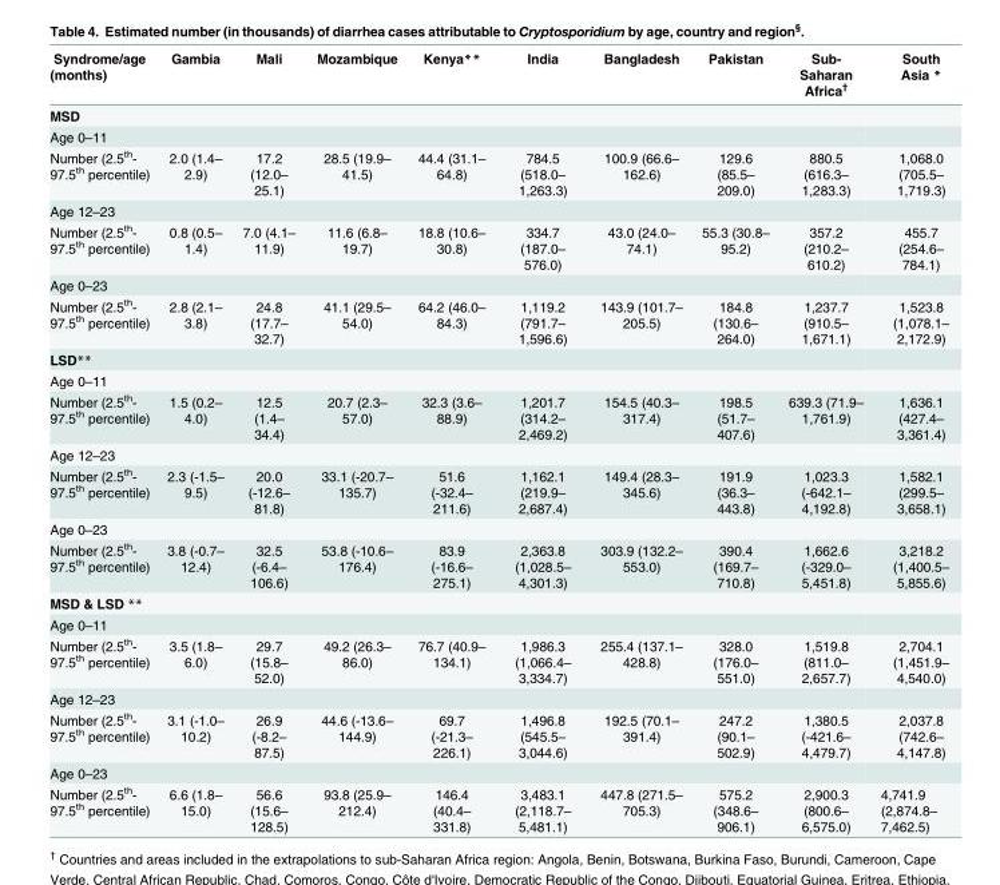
<table><thead><tr><td>Syndrome/age (months)</td><td>Gambia</td><td>Mali</td><td>Mozambique</td><td>Kenya**</td><td>India</td><td>Bangladesh</td><td>Pakistan</td><td>Sub- Saharan Africa<sup>†</sup></td><td>South Asia *</td></tr></thead><tbody><tr><td colspan="10">MSD</td></tr><tr><td colspan="10">Age 0–11</td></tr><tr><td>Number (2.5<sup>th</sup>- 97.5<sup>th</sup> percentile)</td><td>2.0 (1.4– 2.9)</td><td>17.2 (12.0– 25.1)</td><td>28.5 (19.9– 41.5)</td><td>44.4 (31.1– 64.8)</td><td>784.5 (518.0– 1,263.3)</td><td>100.9 (66.6– 162.6)</td><td>129.6 (85.5– 209.0)</td><td>880.5 (616.3– 1,283.3)</td><td>1,068.0 (705.5– 1,719.3)</td></tr><tr><td colspan="10">Age 12–23</td></tr><tr><td>Number (2.5<sup>th</sup>- 97.5<sup>th</sup> percentile)</td><td>0.8 (0.5– 1.4)</td><td>7.0 (4.1– 11.9)</td><td>11.6 (6.8– 19.7)</td><td>18.8 (10.6– 30.8)</td><td>334.7 (187.0– 576.0)</td><td>43.0 (24.0– 74.1)</td><td>55.3 (30.8– 95.2)</td><td>357.2 (210.2– 610.2)</td><td>455.7 (254.6– 784.1)</td></tr><tr><td colspan="10">Age 0–23</td></tr><tr><td>Number (2.5<sup>th</sup>- 97.5<sup>th</sup> percentile)</td><td>2.8 (2.1– 3.8)</td><td>24.8 (17.7– 32.7)</td><td>41.1 (29.5– 54.0)</td><td>64.2 (46.0– 84.3)</td><td>1,119.2 (791.7– 1,596.6)</td><td>143.9 (101.7– 205.5)</td><td>184.8 (130.6– 264.0)</td><td>1,237.7 (910.5– 1,671.1)</td><td>1,523.8 (1,078.1– 2,172.9)</td></tr><tr><td colspan="10">LSD**</td></tr><tr><td colspan="10">Age 0–11</td></tr><tr><td>Number (2.5<sup>th</sup>- 97.5<sup>th</sup> percentile)</td><td>1.5 (0.2– 4.0)</td><td>12.5 (1.4– 34.4)</td><td>20.7 (2.3– 57.0)</td><td>32.3 (3.6– 88.9)</td><td>1,201.7 (314.2– 2,469.2)</td><td>154.5 (40.3– 317.4)</td><td>198.5 (51.7– 407.6)</td><td>639.3 (71.9– 1,761.9)</td><td>1,636.1 (427.4– 3,361.4)</td></tr><tr><td colspan="10">Age 12–23</td></tr><tr><td>Number (2.5<sup>th</sup>- 97.5<sup>th</sup> percentile)</td><td>2.3 (-1.5– 9.5)</td><td>20.0 (-12.6– 81.8)</td><td>33.1 (-20.7– 135.7)</td><td>51.6 (-32.4– 211.6)</td><td>1,162.1 (219.9– 2,687.4)</td><td>149.4 (28.3– 345.6)</td><td>191.9 (36.3– 443.8)</td><td>1,023.3 (-642.1– 4,192.8)</td><td>1,582.1 (299.5– 3,658.1)</td></tr><tr><td colspan="10">Age 0–23</td></tr><tr><td>Number (2.5<sup>th</sup>- 97.5<sup>th</sup> percentile)</td><td>3.8 (-0.7– 12.4)</td><td>32.5 (-6.4– 106.6)</td><td>53.8 (-10.6– 176.4)</td><td>83.9 (-16.6– 275.1)</td><td>2,363.8 (1,028.5– 4,301.3)</td><td>303.9 (132.2– 553.0)</td><td>390.4 (169.7– 710.8)</td><td>1,662.6 (-329.0– 5,451.8)</td><td>3,218.2 (1,400.5– 5,855.6)</td></tr><tr><td colspan="10">MSD &amp; LSD **</td></tr><tr><td colspan="10">Age 0–11</td></tr><tr><td>Number (2.5<sup>th</sup>- 97.5<sup>th</sup> percentile)</td><td>3.5 (1.8– 6.0)</td><td>29.7 (15.8– 52.0)</td><td>49.2 (26.3– 86.0)</td><td>76.7 (40.9– 134.1)</td><td>1,986.3 (1,066.4– 3,334.7)</td><td>255.4 (137.1– 428.8)</td><td>328.0 (176.0– 551.0)</td><td>1,519.8 (811.0– 2,657.7)</td><td>2,704.1 (1,451.9– 4,540.0)</td></tr><tr><td colspan="10">Age 12–23</td></tr><tr><td>Number (2.5<sup>th</sup>- 97.5<sup>th</sup> percentile)</td><td>3.1 (-1.0– 10.2)</td><td>26.9 (-8.2– 87.5)</td><td>44.6 (-13.6– 144.9)</td><td>69.7 (-21.3– 226.1)</td><td>1,496.8 (545.5– 3,044.6)</td><td>192.5 (70.1– 391.4)</td><td>247.2 (90.1– 502.9)</td><td>1,380.5 (-421.6– 4,479.7)</td><td>2,037.8 (742.6– 4,147.8)</td></tr><tr><td colspan="10">Age 0–23</td></tr><tr><td>Number (2.5<sup>th</sup>- 97.5<sup>th</sup> percentile)</td><td>6.6 (1.8– 15.0)</td><td>56.6 (15.6– 128.5)</td><td>93.8 (25.9– 212.4)</td><td>146.4 (40.4– 331.8)</td><td>3,483.1 (2,118.7– 5,481.1)</td><td>447.8 (271.5– 705.3)</td><td>575.2 (348.6– 906.1)</td><td>2,900.3 (800.6– 6,575.0)</td><td>4,741.9 (2,874.8– 7,462.5)</td></tr></tbody></table>